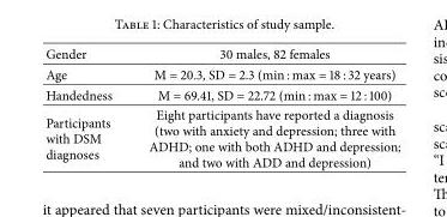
<table><tbody><tr><td>Gender</td><td>30 males, 82 females</td></tr><tr><td>Age</td><td>M = 20.3, SD = 2.3 (min : max = 18 : 32 years)</td></tr><tr><td>Handedness</td><td>M = 69.41, SD = 22.72 (min : max = 12 : 100)</td></tr><tr><td>Participants with DSM diagnoses</td><td>Eight participants have reported a diagnosis (two with anxiety and depression; three with ADHD; one with both ADHD and depression; and two with ADD and depression)</td></tr></tbody></table>